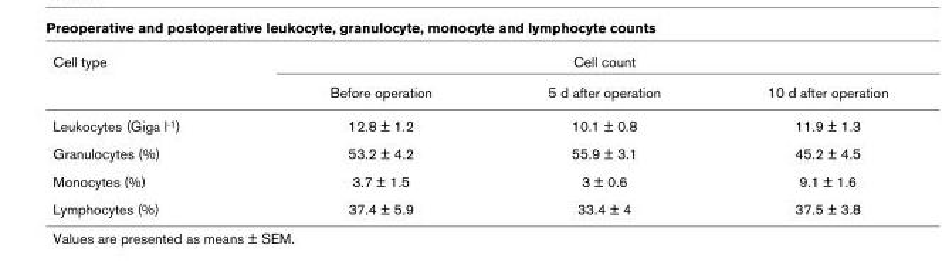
<table><thead><tr><td rowspan="2">Cell type</td><td colspan="3">Cell count</td></tr><tr><td>Before operation</td><td>5 d after operation</td><td>10 d after operation</td></tr></thead><tbody><tr><td>Leukocytes (Giga l-1)</td><td>12.8 ± 1.2</td><td>10.1 ± 0.8</td><td>11.9 ± 1.3</td></tr><tr><td>Granulocytes (%)</td><td>53.2 ± 4.2</td><td>55.9 ± 3.1</td><td>45.2 ± 4.5</td></tr><tr><td>Monocytes (%)</td><td>3.7 ± 1.5</td><td>3 ± 0.6</td><td>9.1 ± 1.6</td></tr><tr><td>Lymphocytes (%)</td><td>37.4 ± 5.9</td><td>33.4 ± 4</td><td>37.5 ± 3.8</td></tr></tbody></table>